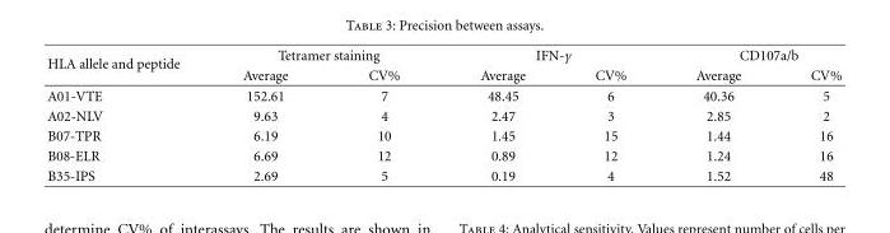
<table><thead><tr><td rowspan="2">HLA allele and peptide</td><td colspan="2">Tetramer staining</td><td colspan="2">IFN-γ</td><td colspan="2">CD107a/b</td></tr><tr><td>Average</td><td>CV%</td><td>Average</td><td>CV%</td><td>Average</td><td>CV%</td></tr></thead><tbody><tr><td>A01-VTE</td><td>152.61</td><td>7</td><td>48.45</td><td>6</td><td>40.36</td><td>5</td></tr><tr><td>A02-NLV</td><td>9.63</td><td>4</td><td>2.47</td><td>3</td><td>2.85</td><td>2</td></tr><tr><td>B07-TPR</td><td>6.19</td><td>10</td><td>1.45</td><td>15</td><td>1.44</td><td>16</td></tr><tr><td>B08-ELR</td><td>6.69</td><td>12</td><td>0.89</td><td>12</td><td>1.24</td><td>16</td></tr><tr><td>B35-IPS</td><td>2.69</td><td>5</td><td>0.19</td><td>4</td><td>1.52</td><td>48</td></tr></tbody></table>